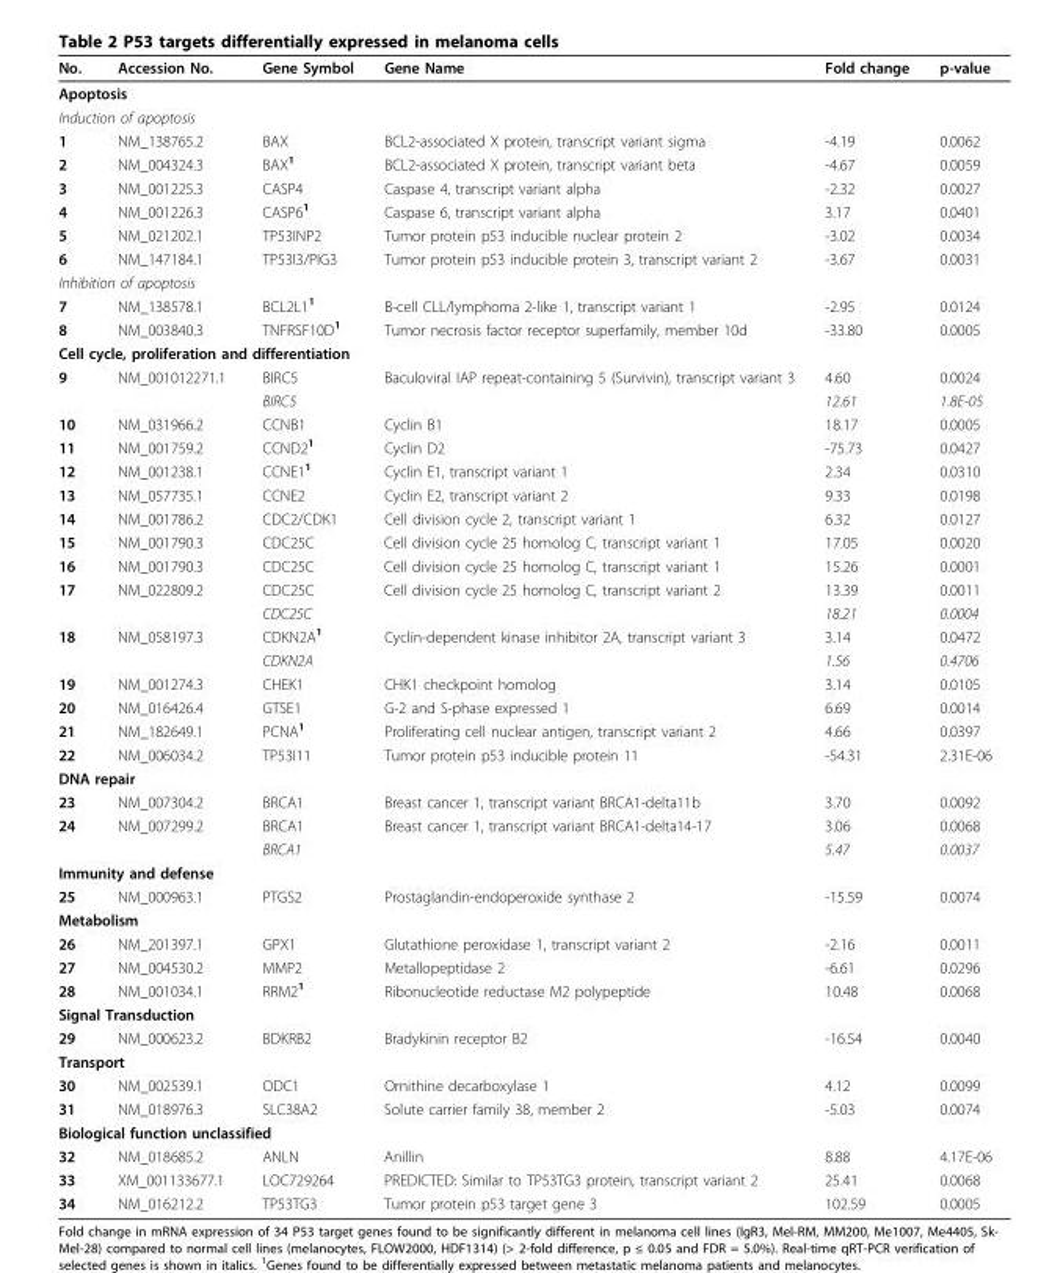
<table><thead><tr><td>No.</td><td>Accession No.</td><td>Gene Symbol</td><td>Gene Name</td><td>Fold change</td><td>p-value</td></tr></thead><tbody><tr><td colspan="6">Apoptosis</td></tr><tr><td colspan="6">Induction of apoptosis</td></tr><tr><td>1</td><td>NM_138765.2</td><td>BAX</td><td>BCL2-associated X protein, transcript variant sigma</td><td>-4.19</td><td>0.0062</td></tr><tr><td>2</td><td>NM_004324.3</td><td>BAX<sup>1</sup></td><td>BCL2-associated X protein, transcript variant beta</td><td>-4.67</td><td>0.0059</td></tr><tr><td>3</td><td>NM_001225.3</td><td>CASP4</td><td>Caspase 4, transcript variant alpha</td><td>-2.32</td><td>0.0027</td></tr><tr><td>4</td><td>NM_001226.3</td><td>CASP6<sup>1</sup></td><td>Caspase 6, transcript variant alpha</td><td>3.17</td><td>0.0401</td></tr><tr><td>5</td><td>NM_021202.1</td><td>TP53INP2</td><td>Tumor protein p53 inducible nuclear protein 2</td><td>-3.02</td><td>0.0034</td></tr><tr><td>6</td><td>NM_147184.1</td><td>TP53I3/PIG3</td><td>Tumor protein p53 inducible protein 3, transcript variant 2</td><td>-3.67</td><td>0.0031</td></tr><tr><td colspan="6">Inhibition of apoptosis</td></tr><tr><td>7</td><td>NM_138578.1</td><td>BCL2L1<sup>1</sup></td><td>B-cell CLL/lymphoma 2-like 1, transcript variant 1</td><td>-2.95</td><td>0.0124</td></tr><tr><td>8</td><td>NM_003840.3</td><td>TNFRSF10D<sup>1</sup></td><td>Tumor necrosis factor receptor superfamily, member 10d</td><td>-33.80</td><td>0.0005</td></tr><tr><td colspan="6">Cell cycle, proliferation and differentiation</td></tr><tr><td rowspan="2">9</td><td>NM_001012271.1</td><td>BIRC5</td><td>Baculoviral IAP repeat-containing 5 (Survivin), transcript variant 3</td><td>4.60</td><td>0.0024</td></tr><tr><td></td><td>BIRC5</td><td></td><td>12.61</td><td>1.8E-05</td></tr><tr><td>10</td><td>NM_031966.2</td><td>CCNB1</td><td>Cyclin B1</td><td>18.17</td><td>0.0005</td></tr><tr><td>11</td><td>NM_001759.2</td><td>CCND2<sup>1</sup></td><td>Cyclin D2</td><td>-75.73</td><td>0.0427</td></tr><tr><td>12</td><td>NM_001238.1</td><td>CCNE1<sup>1</sup></td><td>Cyclin E1, transcript variant 1</td><td>2.34</td><td>0.0310</td></tr><tr><td>13</td><td>NM_057735.1</td><td>CCNE2</td><td>Cyclin E2, transcript variant 2</td><td>9.33</td><td>0.0198</td></tr><tr><td>14</td><td>NM_001786.2</td><td>CDC2/CDK1</td><td>Cell division cycle 2, transcript variant 1</td><td>6.32</td><td>0.0127</td></tr><tr><td>15</td><td>NM_001790.3</td><td>CDC25C</td><td>Cell division cycle 25 homolog C, transcript variant 1</td><td>17.05</td><td>0.0020</td></tr><tr><td>16</td><td>NM_001790.3</td><td>CDC25C</td><td>Cell division cycle 25 homolog C, transcript variant 1</td><td>15.26</td><td>0.0001</td></tr><tr><td rowspan="2">17</td><td>NM_022809.2</td><td>CDC25C</td><td>Cell division cycle 25 homolog C, transcript variant 2</td><td>13.39</td><td>0.0011</td></tr><tr><td></td><td>CDC25C</td><td></td><td>18.21</td><td>0.0004</td></tr><tr><td rowspan="2">18</td><td>NM_058197.3</td><td>CDKN2A<sup>1</sup></td><td>Cyclin-dependent kinase inhibitor 2A, transcript variant 3</td><td>3.14</td><td>0.0472</td></tr><tr><td></td><td>CDKN2A</td><td></td><td>1.56</td><td>0.4706</td></tr><tr><td>19</td><td>NM_001274.3</td><td>CHEK1</td><td>CHK1 checkpoint homolog</td><td>3.14</td><td>0.0105</td></tr><tr><td>20</td><td>NM_016426.4</td><td>GTSE1</td><td>G-2 and S-phase expressed 1</td><td>6.69</td><td>0.0014</td></tr><tr><td>21</td><td>NM_182649.1</td><td>PCNA<sup>1</sup></td><td>Proliferating cell nuclear antigen, transcript variant 2</td><td>4.66</td><td>0.0397</td></tr><tr><td>22</td><td>NM_006034.2</td><td>TP53I11</td><td>Tumor protein p53 inducible protein 11</td><td>-54.31</td><td>2.31E-06</td></tr><tr><td colspan="6">DNA repair</td></tr><tr><td>23</td><td>NM_007304.2</td><td>BRCA1</td><td>Breast cancer 1, transcript variant BRCA1-delta11b</td><td>3.70</td><td>0.0092</td></tr><tr><td rowspan="2">24</td><td>NM_007299.2</td><td>BRCA1</td><td>Breast cancer 1, transcript variant BRCA1-delta14-17</td><td>3.06</td><td>0.0068</td></tr><tr><td></td><td>BRCA1</td><td></td><td>5.47</td><td>0.0037</td></tr><tr><td colspan="6">Immunity and defense</td></tr><tr><td>25</td><td>NM_000963.1</td><td>PTGS2</td><td>Prostaglandin-endoperoxide synthase 2</td><td>-15.59</td><td>0.0074</td></tr><tr><td colspan="6">Metabolism</td></tr><tr><td>26</td><td>NM_201397.1</td><td>GPX1</td><td>Glutathione peroxidase 1, transcript variant 2</td><td>-2.16</td><td>0.0011</td></tr><tr><td>27</td><td>NM_004530.2</td><td>MMP2</td><td>Metallopeptidase 2</td><td>-6.61</td><td>0.0296</td></tr><tr><td>28</td><td>NM_001034.1</td><td>RRM2<sup>1</sup></td><td>Ribonucleotide reductase M2 polypeptide</td><td>10.48</td><td>0.0068</td></tr><tr><td colspan="6">Signal Transduction</td></tr><tr><td>29</td><td>NM_000623.2</td><td>BDKRB2</td><td>Bradykinin receptor B2</td><td>-16.54</td><td>0.0040</td></tr><tr><td colspan="6">Transport</td></tr><tr><td>30</td><td>NM_002539.1</td><td>ODC1</td><td>Ornithine decarboxylase 1</td><td>4.12</td><td>0.0099</td></tr><tr><td>31</td><td>NM_018976.3</td><td>SLC38A2</td><td>Solute carrier family 38, member 2</td><td>-5.03</td><td>0.0074</td></tr><tr><td colspan="6">Biological function unclassified</td></tr><tr><td>32</td><td>NM_018685.2</td><td>ANLN</td><td>Anillin</td><td>8.88</td><td>4.17E-06</td></tr><tr><td>33</td><td>XM_001133677.1</td><td>LOC729264</td><td>PREDICTED: Similar to TP53TG3 protein, transcript variant 2</td><td>25.41</td><td>0.0068</td></tr><tr><td>34</td><td>NM_016212.2</td><td>TP53TG3</td><td>Tumor protein p53 target gene 3</td><td>102.59</td><td>0.0005</td></tr></tbody></table>